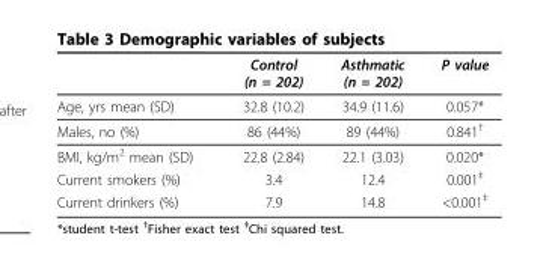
<table><thead><tr><td></td><td>Control (n = 202)</td><td>Asthmatic (n = 202)</td><td>P value</td></tr></thead><tbody><tr><td>Age, yrs mean (SD)</td><td>32.8 (10.2)</td><td>34.9 (11.6)</td><td>0.057*</td></tr><tr><td>Males, no (%)</td><td>86 (44%)</td><td>89 (44%)</td><td>0.841<sup>†</sup></td></tr><tr><td>BMI, kg/m<sup>2</sup> mean (SD)</td><td>22.8 (2.84)</td><td>22.1 (3.03)</td><td>0.020*</td></tr><tr><td>Current smokers (%)</td><td>3.4</td><td>12.4</td><td>0.001<sup>‡</sup></td></tr><tr><td>Current drinkers (%)</td><td>7.9</td><td>14.8</td><td>&lt;0.001<sup>‡</sup></td></tr></tbody></table>